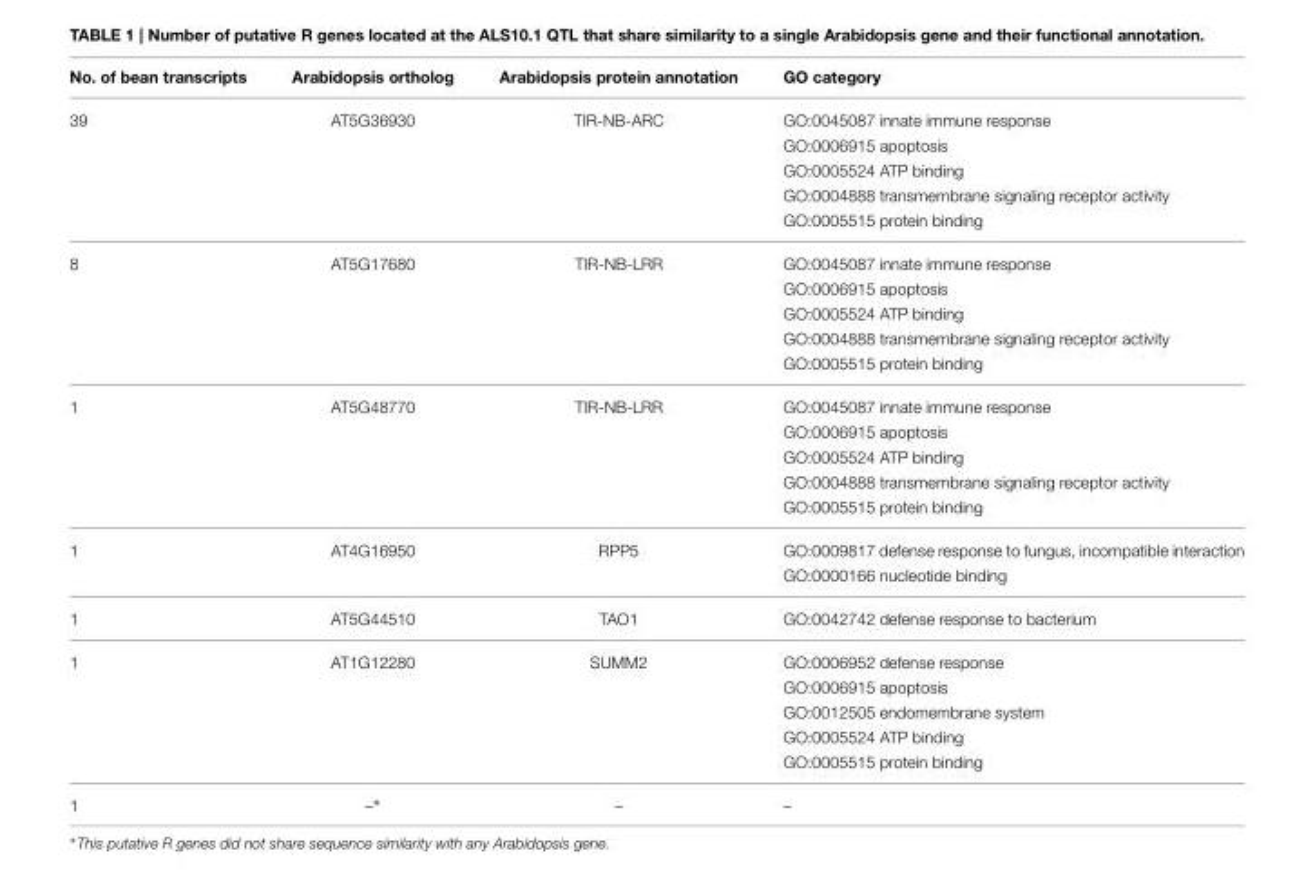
<table><thead><tr><td>No. of bean transcripts</td><td>Arabidopsis ortholog</td><td>Arabidopsis protein annotation</td><td>GO category</td></tr></thead><tbody><tr><td rowspan="5">39</td><td>AT5G36930</td><td>TIR-NB-ARC</td><td>GO:0045087 innate immune response</td></tr><tr><td></td><td></td><td>GO:0006915 apoptosis</td></tr><tr><td></td><td></td><td>GO:0005524 ATP binding</td></tr><tr><td></td><td></td><td>GO:0004888 transmembrane signaling receptor activity</td></tr><tr><td></td><td></td><td>GO:0005515 protein binding</td></tr><tr><td rowspan="5">8</td><td>AT5G17680</td><td>TIR-NB-LRR</td><td>GO:0045087 innate immune response</td></tr><tr><td></td><td></td><td>GO:0006915 apoptosis</td></tr><tr><td></td><td></td><td>GO:0005524 ATP binding</td></tr><tr><td></td><td></td><td>GO:0004888 transmembrane signaling receptor activity</td></tr><tr><td></td><td></td><td>GO:0005515 protein binding</td></tr><tr><td rowspan="5">1</td><td>AT5G48770</td><td>TIR-NB-LRR</td><td>GO:0045087 innate immune response</td></tr><tr><td></td><td></td><td>GO:0006915 apoptosis</td></tr><tr><td></td><td></td><td>GO:0005524 ATP binding</td></tr><tr><td></td><td></td><td>GO:0004888 transmembrane signaling receptor activity</td></tr><tr><td></td><td></td><td>GO:0005515 protein binding</td></tr><tr><td rowspan="2">1</td><td>AT4G16950</td><td>RPP5</td><td>GO:0009817 defense response to fungus, incompatible interaction</td></tr><tr><td></td><td></td><td>GO:0000166 nucleotide binding</td></tr><tr><td>1</td><td>AT5G44510</td><td>TAO1</td><td>GO:0042742 defense response to bacterium</td></tr><tr><td rowspan="5">1</td><td>AT1G12280</td><td>SUMM2</td><td>GO:0006952 defense response</td></tr><tr><td></td><td></td><td>GO:0006915 apoptosis</td></tr><tr><td></td><td></td><td>GO:0012505 endomembrane system</td></tr><tr><td></td><td></td><td>GO:0005524 ATP binding</td></tr><tr><td></td><td></td><td>GO:0005515 protein binding</td></tr><tr><td>1</td><td>–∗</td><td>–</td><td>–</td></tr></tbody></table>